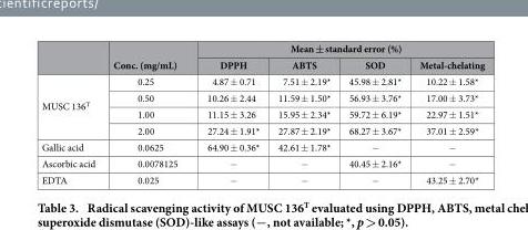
<table><thead><tr><td rowspan="2"></td><td rowspan="2">Conc. (mg/mL)</td><td colspan="4">Mean ± standard error (%)</td></tr><tr><td>DPPH</td><td>ABTS</td><td>SOD</td><td>Metal-chelating</td></tr></thead><tbody><tr><td rowspan="4">MUSC 136<sup>T</sup></td><td>0.25</td><td>4.87 ± 0.71</td><td>7.51 ± 2.19*</td><td>45.98 ± 2.81*</td><td>10.22 ± 1.58*</td></tr><tr><td>0.50</td><td>10.26 ± 2.44</td><td>11.59 ± 1.50*</td><td>56.93 ± 3.76*</td><td>17.00 ± 3.73*</td></tr><tr><td>1.00</td><td>11.15 ± 3.26</td><td>15.95 ± 2.34*</td><td>59.72 ± 6.19*</td><td>22.97 ± 1.51*</td></tr><tr><td>2.00</td><td>27.24 ± 1.91*</td><td>27.87 ± 2.19*</td><td>68.27 ± 3.67*</td><td>37.01 ± 2.59*</td></tr><tr><td>Gallic acid</td><td>0.0625</td><td>64.90 ± 0.36*</td><td>42.61 ± 1.78*</td><td>−</td><td>−</td></tr><tr><td>Ascorbic acid</td><td>0.0078125</td><td>−</td><td>−</td><td>40.45 ± 2.16*</td><td>−</td></tr><tr><td>EDTA</td><td>0.025</td><td>−</td><td>−</td><td>−</td><td>43.25 ± 2.70*</td></tr></tbody></table>